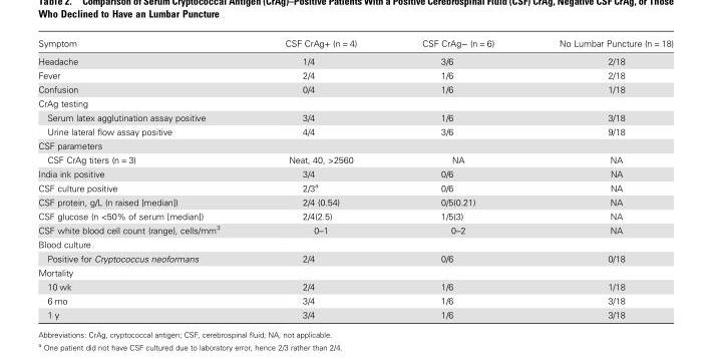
<table><thead><tr><td>Symptom</td><td>CSF CrAg+ (n = 4)</td><td>CSF CrAg− (n = 6)</td><td>No Lumbar Puncture (n = 18)</td></tr></thead><tbody><tr><td>Headache</td><td>1/4</td><td>3/6</td><td>2/18</td></tr><tr><td>Fever</td><td>2/4</td><td>1/6</td><td>2/18</td></tr><tr><td>Confusion</td><td>0/4</td><td>1/6</td><td>1/18</td></tr><tr><td colspan="4">CrAg testing</td></tr><tr><td>Serum latex agglutination assay positive</td><td>3/4</td><td>1/6</td><td>3/18</td></tr><tr><td>Urine lateral flow assay positive</td><td>4/4</td><td>3/6</td><td>9/18</td></tr><tr><td colspan="4">CSF parameters</td></tr><tr><td>CSF CrAg titers (n = 3)</td><td>Neat, 40, &gt;2560</td><td>NA</td><td>NA</td></tr><tr><td>India ink positive</td><td>3/4</td><td>0/6</td><td>NA</td></tr><tr><td>CSF culture positive</td><td>2/3<sup>a</sup></td><td>0/6</td><td>NA</td></tr><tr><td>CSF protein, g/L (n raised [median])</td><td>2/4 (0.54)</td><td>0/5(0.21)</td><td>NA</td></tr><tr><td>CSF glucose (n &lt;50% of serum [median])</td><td>2/4(2.5)</td><td>1/5(3)</td><td>NA</td></tr><tr><td>CSF white blood cell count (range), cells/mm<sup>3</sup></td><td>0–1</td><td>0–2</td><td>NA</td></tr><tr><td colspan="4">Blood culture</td></tr><tr><td>Positive for Cryptococcus neoformans</td><td>2/4</td><td>0/6</td><td>0/18</td></tr><tr><td colspan="4">Mortality</td></tr><tr><td>10 wk</td><td>2/4</td><td>1/6</td><td>1/18</td></tr><tr><td>6 mo</td><td>3/4</td><td>1/6</td><td>3/18</td></tr><tr><td>1 y</td><td>3/4</td><td>1/6</td><td>3/18</td></tr></tbody></table>